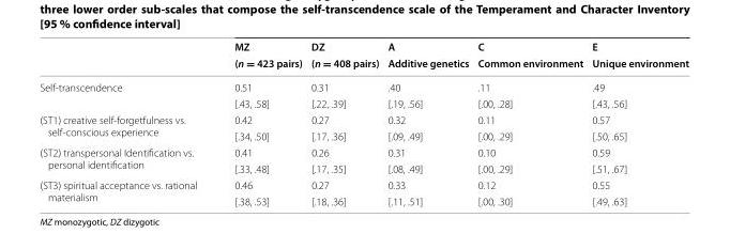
<table><thead><tr><td rowspan="2"></td><td rowspan="2">MZ (n = 423 pairs)</td><td rowspan="2">DZ (n = 408 pairs)</td><td rowspan="2">A Additive genetics</td><td rowspan="2">C Common environment</td><td rowspan="2">E Unique environment</td></tr><tr></tr></thead><tbody><tr><td rowspan="2">Self-transcendence</td><td>0.51</td><td>0.31</td><td>.40</td><td>.11</td><td>.49</td></tr><tr><td>[.43, .58]</td><td>[.22, .39]</td><td>[.19, .56]</td><td>[.00, .28]</td><td>[.43, .56]</td></tr><tr><td rowspan="2">(ST1) creative self-forgetfulness vs. self-conscious experience</td><td>0.42</td><td>0.27</td><td>0.32</td><td>0.11</td><td>0.57</td></tr><tr><td>[.34, .50]</td><td>[.17, .36]</td><td>[.09, .49]</td><td>[.00, .29]</td><td>[.50, .65]</td></tr><tr><td rowspan="2">(ST2) transpersonal Identification vs. personal identification</td><td>0.41</td><td>0.26</td><td>0.31</td><td>0.10</td><td>0.59</td></tr><tr><td>[.33, .48]</td><td>[.17, .35]</td><td>[.08, .49]</td><td>[.00, .29]</td><td>[.51, .67]</td></tr><tr><td rowspan="2">(ST3) spiritual acceptance vs. rational materialism</td><td>0.46</td><td>0.27</td><td>0.33</td><td>0.12</td><td>0.55</td></tr><tr><td>[.38, .53]</td><td>[.18, .36]</td><td>[.11, .51]</td><td>[.00, .30]</td><td>[.49, .63]</td></tr></tbody></table>